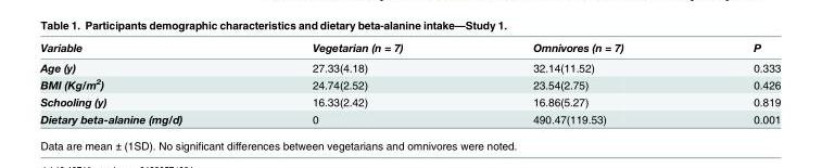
<table><thead><tr><td>Variable</td><td>Vegetarian (n = 7)</td><td>Omnivores (n = 7)</td><td>P</td></tr></thead><tbody><tr><td>Age (y)</td><td>27.33(4.18)</td><td>32.14(11.52)</td><td>0.333</td></tr><tr><td>BMI (Kg/m<sup>2</sup>)</td><td>24.74(2.52)</td><td>23.54(2.75)</td><td>0.426</td></tr><tr><td>Schooling (y)</td><td>16.33(2.42)</td><td>16.86(5.27)</td><td>0.819</td></tr><tr><td>Dietary beta-alanine (mg/d)</td><td>0</td><td>490.47(119.53)</td><td>0.001</td></tr></tbody></table>